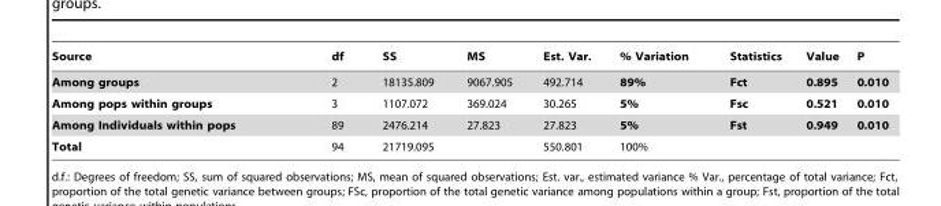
<table><thead><tr><td>Source</td><td>df</td><td>SS</td><td>MS</td><td>Est. Var.</td><td>% Variation</td><td>Statistics</td><td>Value</td><td>P</td></tr></thead><tbody><tr><td>Among groups</td><td>2</td><td>18135.809</td><td>9067.905</td><td>492.714</td><td>89%</td><td>Fct</td><td>0.895</td><td>0.010</td></tr><tr><td>Among pops within groups</td><td>3</td><td>1107.072</td><td>369.024</td><td>30.265</td><td>5%</td><td>Fsc</td><td>0.521</td><td>0.010</td></tr><tr><td>Among Individuals within pops</td><td>89</td><td>2476.214</td><td>27.823</td><td>27.823</td><td>5%</td><td>Fst</td><td>0.949</td><td>0.010</td></tr><tr><td>Total</td><td>94</td><td>21719.095</td><td></td><td>550.801</td><td>100%</td><td></td><td></td><td></td></tr></tbody></table>